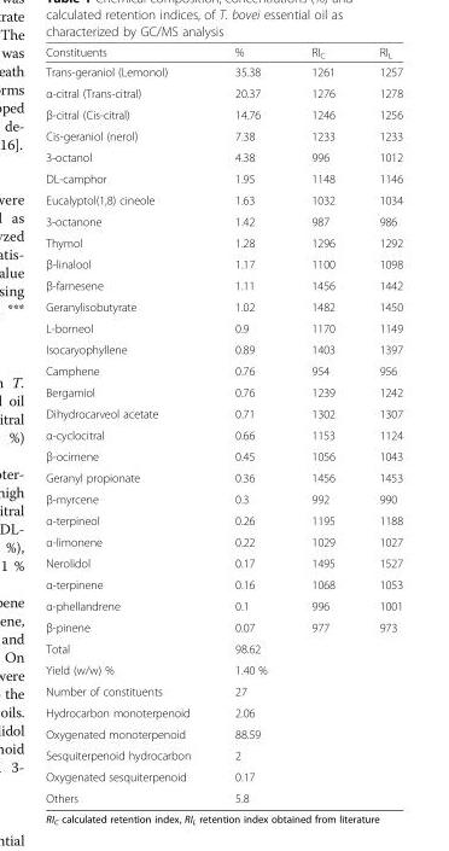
<table><thead><tr><td>Constituents</td><td>%</td><td>RI<sub>C</sub></td><td>RI<sub>L</sub></td></tr></thead><tbody><tr><td>Trans-geraniol (Lemonol)</td><td>35.38</td><td>1261</td><td>1257</td></tr><tr><td>α-citral (Trans-citral)</td><td>20.37</td><td>1276</td><td>1278</td></tr><tr><td>β-citral (Cis-citral)</td><td>14.76</td><td>1246</td><td>1256</td></tr><tr><td>Cis-geraniol (nerol)</td><td>7.38</td><td>1233</td><td>1233</td></tr><tr><td>3-octanol</td><td>4.38</td><td>996</td><td>1012</td></tr><tr><td>DL-camphor</td><td>1.95</td><td>1148</td><td>1146</td></tr><tr><td>Eucalyptol(1,8) cineole</td><td>1.63</td><td>1032</td><td>1034</td></tr><tr><td>3-octanone</td><td>1.42</td><td>987</td><td>986</td></tr><tr><td>Thymol</td><td>1.28</td><td>1296</td><td>1292</td></tr><tr><td>β-linalool</td><td>1.17</td><td>1100</td><td>1098</td></tr><tr><td>β-farnesene</td><td>1.11</td><td>1456</td><td>1442</td></tr><tr><td>Geranylisobutyrate</td><td>1.02</td><td>1482</td><td>1450</td></tr><tr><td>L-borneol</td><td>0.9</td><td>1170</td><td>1149</td></tr><tr><td>Isocaryophyllene</td><td>0.89</td><td>1403</td><td>1397</td></tr><tr><td>Camphene</td><td>0.76</td><td>954</td><td>956</td></tr><tr><td>Bergamiol</td><td>0.76</td><td>1239</td><td>1242</td></tr><tr><td>Dihydrocarveol acetate</td><td>0.71</td><td>1302</td><td>1307</td></tr><tr><td>α-cyclocitral</td><td>0.66</td><td>1153</td><td>1124</td></tr><tr><td>β-ocimene</td><td>0.45</td><td>1056</td><td>1043</td></tr><tr><td>Geranyl propionate</td><td>0.36</td><td>1456</td><td>1453</td></tr><tr><td>β-myrcene</td><td>0.3</td><td>992</td><td>990</td></tr><tr><td>α-terpineol</td><td>0.26</td><td>1195</td><td>1188</td></tr><tr><td>α-limonene</td><td>0.22</td><td>1029</td><td>1027</td></tr><tr><td>Nerolidol</td><td>0.17</td><td>1495</td><td>1527</td></tr><tr><td>α-terpinene</td><td>0.16</td><td>1068</td><td>1053</td></tr><tr><td>α-phellandrene</td><td>0.1</td><td>996</td><td>1001</td></tr><tr><td>β-pinene</td><td>0.07</td><td>977</td><td>973</td></tr><tr><td>Total</td><td>98.62</td><td></td><td></td></tr><tr><td>Yield (w/w) %</td><td>1.40 %</td><td></td><td></td></tr><tr><td>Number of constituents</td><td>27</td><td></td><td></td></tr><tr><td>Hydrocarbon monoterpenoid</td><td>2.06</td><td></td><td></td></tr><tr><td>Oxygenated monoterpenoid</td><td>88.59</td><td></td><td></td></tr><tr><td>Sesquiterpenoid hydrocarbon</td><td>2</td><td></td><td></td></tr><tr><td>Oxygenated sesquiterpenoid</td><td>0.17</td><td></td><td></td></tr><tr><td>Others</td><td>5.8</td><td></td><td></td></tr></tbody></table>